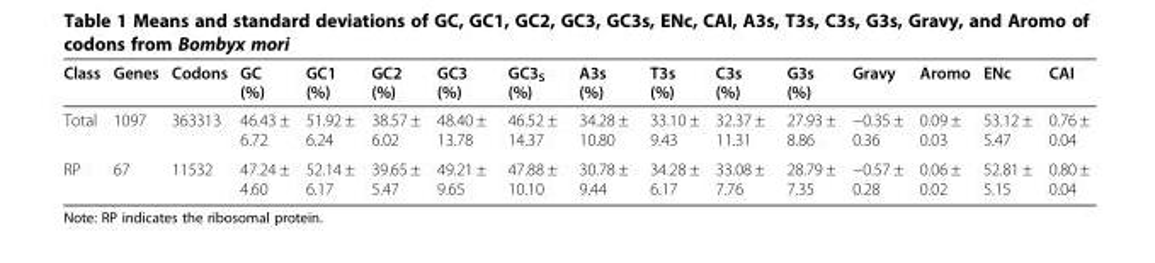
<table><thead><tr><td>Class</td><td>Genes</td><td>Codons</td><td>GC (%)</td><td>GC1 (%)</td><td>GC2 (%)</td><td>GC3 (%)</td><td>GC3<sub>S</sub> (%)</td><td>A3s (%)</td><td>T3s (%)</td><td>C3s (%)</td><td>G3s (%)</td><td>Gravy</td><td>Aromo</td><td>ENc</td><td>CAI</td></tr></thead><tbody><tr><td>Total</td><td>1097</td><td>363313</td><td>46.43 ± 6.72</td><td>51.92 ± 6.24</td><td>38.57 ± 6.02</td><td>48.40 ± 13.78</td><td>46.52 ± 14.37</td><td>34.28 ± 10.80</td><td>33.10 ± 9.43</td><td>32.37 ± 11.31</td><td>27.93 ± 8.86</td><td>−0.35 ± 0.36</td><td>0.09 ± 0.03</td><td>53.12 ± 5.47</td><td>0.76 ± 0.04</td></tr><tr><td>RP</td><td>67</td><td>11532</td><td>47.24 ± 4.60</td><td>52.14 ± 6.17</td><td>39.65 ± 5.47</td><td>49.21 ± 9.65</td><td>47.88 ± 10.10</td><td>30.78 ± 9.44</td><td>34.28 ± 6.17</td><td>33.08 ± 7.76</td><td>28.79 ± 7.35</td><td>−0.57 ± 0.28</td><td>0.06 ± 0.02</td><td>52.81 ± 5.15</td><td>0.80 ± 0.04</td></tr></tbody></table>